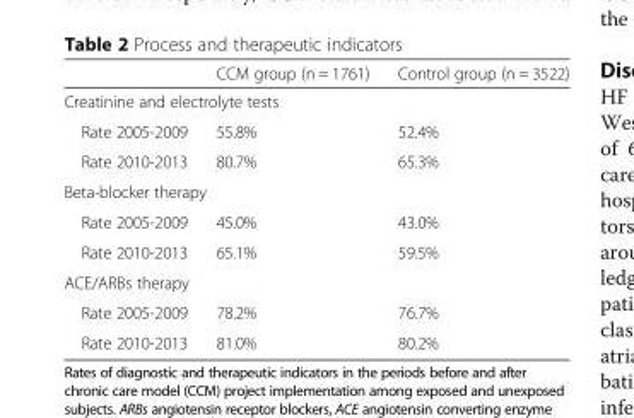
<table><thead><tr><td></td><td>CCM group (n = 1761)</td><td>Control group (n = 3522)</td></tr></thead><tbody><tr><td colspan="3">Creatinine and electrolyte tests</td></tr><tr><td>Rate 2005-2009</td><td>55.8%</td><td>52.4%</td></tr><tr><td>Rate 2010-2013</td><td>80.7%</td><td>65.3%</td></tr><tr><td colspan="3">Beta-blocker therapy</td></tr><tr><td>Rate 2005-2009</td><td>45.0%</td><td>43.0%</td></tr><tr><td>Rate 2010-2013</td><td>65.1%</td><td>59.5%</td></tr><tr><td colspan="3">ACE/ARBs therapy</td></tr><tr><td>Rate 2005-2009</td><td>78.2%</td><td>76.7%</td></tr><tr><td>Rate 2010-2013</td><td>81.0%</td><td>80.2%</td></tr></tbody></table>